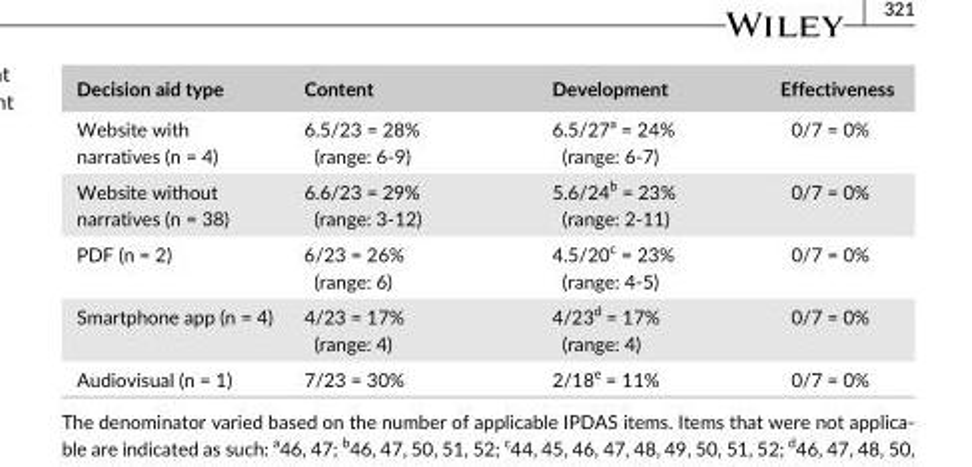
<table><thead><tr><td>Decision aid type</td><td>Content</td><td>Development</td><td>Effectiveness</td></tr></thead><tbody><tr><td>Website with narratives (n = 4)</td><td>6.5/23 = 28% (range: 6- 9)</td><td>6.5/27<sup>a</sup> = 24% (range: 6- 7)</td><td>0/7 = 0%</td></tr><tr><td>Website without narratives (n = 38)</td><td>6.6/23 = 29% (range: 3- 12)</td><td>5.6/24<sup>b</sup> = 23% (range: 2- 11)</td><td>0/7 = 0%</td></tr><tr><td>PDF (n = 2)</td><td>6/23 = 26% (range: 6)</td><td>4.5/20<sup>c</sup> = 23% (range: 4- 5)</td><td>0/7 = 0%</td></tr><tr><td>Smartphone app (n = 4)</td><td>4/23 = 17% (range: 4)</td><td>4/23<sup>d</sup> = 17% (range: 4)</td><td>0/7 = 0%</td></tr><tr><td>Audiovisual (n = 1)</td><td>7/23 = 30%</td><td>2/18<sup>e</sup> = 11%</td><td>0/7 = 0%</td></tr></tbody></table>